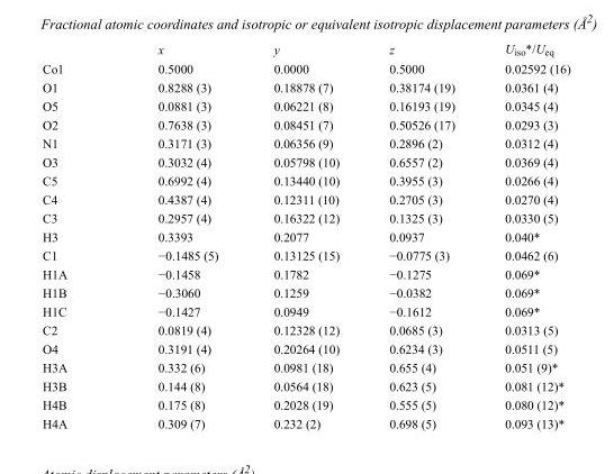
<table><thead><tr><td></td><td>x</td><td>y</td><td>z</td><td>U<sub>iso</sub>*/U<sub>eq</sub></td></tr></thead><tbody><tr><td>Co1</td><td>0.5000</td><td>0.0000</td><td>0.5000</td><td>0.02592 (16)</td></tr><tr><td>O1</td><td>0.8288 (3)</td><td>0.18878 (7)</td><td>0.38174 (19)</td><td>0.0361 (4)</td></tr><tr><td>O5</td><td>0.0881 (3)</td><td>0.06221 (8)</td><td>0.16193 (19)</td><td>0.0345 (4)</td></tr><tr><td>O2</td><td>0.7638 (3)</td><td>0.08451 (7)</td><td>0.50526 (17)</td><td>0.0293 (3)</td></tr><tr><td>N1</td><td>0.3171 (3)</td><td>0.06356 (9)</td><td>0.2896 (2)</td><td>0.0312 (4)</td></tr><tr><td>O3</td><td>0.3032 (4)</td><td>0.05798 (10)</td><td>0.6557 (2)</td><td>0.0369 (4)</td></tr><tr><td>C5</td><td>0.6992 (4)</td><td>0.13440 (10)</td><td>0.3955 (3)</td><td>0.0266 (4)</td></tr><tr><td>C4</td><td>0.4387 (4)</td><td>0.12311 (10)</td><td>0.2705 (3)</td><td>0.0270 (4)</td></tr><tr><td>C3</td><td>0.2957 (4)</td><td>0.16322 (12)</td><td>0.1325 (3)</td><td>0.0330 (5)</td></tr><tr><td>H3</td><td>0.3393</td><td>0.2077</td><td>0.0937</td><td>0.040*</td></tr><tr><td>C1</td><td>−0.1485 (5)</td><td>0.13125 (15)</td><td>−0.0775 (3)</td><td>0.0462 (6)</td></tr><tr><td>H1A</td><td>−0.1458</td><td>0.1782</td><td>−0.1275</td><td>0.069*</td></tr><tr><td>H1B</td><td>−0.3060</td><td>0.1259</td><td>−0.0382</td><td>0.069*</td></tr><tr><td>H1C</td><td>−0.1427</td><td>0.0949</td><td>−0.1612</td><td>0.069*</td></tr><tr><td>C2</td><td>0.0819 (4)</td><td>0.12328 (12)</td><td>0.0685 (3)</td><td>0.0313 (5)</td></tr><tr><td>O4</td><td>0.3191 (4)</td><td>0.20264 (10)</td><td>0.6234 (3)</td><td>0.0511 (5)</td></tr><tr><td>H3A</td><td>0.332 (6)</td><td>0.0981 (18)</td><td>0.655 (4)</td><td>0.051 (9)*</td></tr><tr><td>H3B</td><td>0.144 (8)</td><td>0.0564 (18)</td><td>0.623 (5)</td><td>0.081 (12)*</td></tr><tr><td>H4B</td><td>0.175 (8)</td><td>0.2028 (19)</td><td>0.555 (5)</td><td>0.080 (12)*</td></tr><tr><td>H4A</td><td>0.309 (7)</td><td>0.232 (2)</td><td>0.698 (5)</td><td>0.093 (13)*</td></tr></tbody></table>